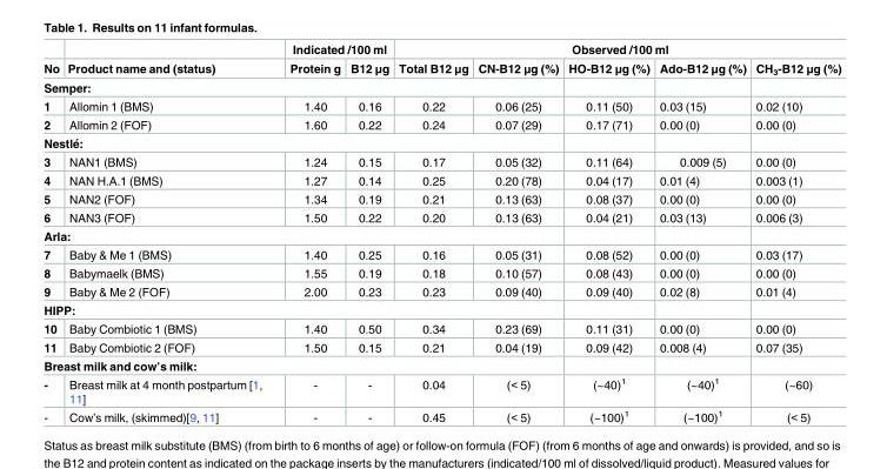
<table><thead><tr><td rowspan="2">No</td><td rowspan="2">Product name and (status)</td><td colspan="2">Indicated /100 ml</td><td colspan="5">Observed /100 ml</td></tr><tr><td>Protein g</td><td>B12 μg</td><td>Total B12 μg</td><td>CN-B12 μg (%)</td><td>HO-B12 μg (%)</td><td>Ado-B12 μg (%)</td><td>CH<sub>3</sub>-B12 μg (%)</td></tr></thead><tbody><tr><td colspan="9">Semper:</td></tr><tr><td>1</td><td>Allomin 1 (BMS)</td><td>1.40</td><td>0.16</td><td>0.22</td><td>0.06 (25)</td><td>0.11 (50)</td><td>0.03 (15)</td><td>0.02 (10)</td></tr><tr><td>2</td><td>Allomin 2 (FOF)</td><td>1.60</td><td>0.22</td><td>0.24</td><td>0.07 (29)</td><td>0.17 (71)</td><td>0.00 (0)</td><td>0.00 (0)</td></tr><tr><td colspan="9">Nestle´:</td></tr><tr><td>3</td><td>NAN1 (BMS)</td><td>1.24</td><td>0.15</td><td>0.17</td><td>0.05 (32)</td><td>0.11 (64)</td><td>0.009 (5)</td><td>0.00 (0)</td></tr><tr><td>4</td><td>NAN H.A.1 (BMS)</td><td>1.27</td><td>0.14</td><td>0.25</td><td>0.20 (78)</td><td>0.04 (17)</td><td>0.01 (4)</td><td>0.003 (1)</td></tr><tr><td>5</td><td>NAN2 (FOF)</td><td>1.34</td><td>0.19</td><td>0.21</td><td>0.13 (63)</td><td>0.08 (37)</td><td>0.00 (0)</td><td>0.00 (0)</td></tr><tr><td>6</td><td>NAN3 (FOF)</td><td>1.50</td><td>0.22</td><td>0.20</td><td>0.13 (63)</td><td>0.04 (21)</td><td>0.03 (13)</td><td>0.006 (3)</td></tr><tr><td colspan="9">Arla:</td></tr><tr><td>7</td><td>Baby &amp; Me 1 (BMS)</td><td>1.40</td><td>0.25</td><td>0.16</td><td>0.05 (31)</td><td>0.08 (52)</td><td>0.00 (0)</td><td>0.03 (17)</td></tr><tr><td>8</td><td>Babymaelk (BMS)</td><td>1.55</td><td>0.19</td><td>0.18</td><td>0.10 (57)</td><td>0.08 (43)</td><td>0.00 (0)</td><td>0.00 (0)</td></tr><tr><td>9</td><td>Baby &amp; Me 2 (FOF)</td><td>2.00</td><td>0.23</td><td>0.23</td><td>0.09 (40)</td><td>0.09 (40)</td><td>0.02 (8)</td><td>0.01 (4)</td></tr><tr><td colspan="9">HIPP:</td></tr><tr><td>10</td><td>Baby Combiotic 1 (BMS)</td><td>1.40</td><td>0.50</td><td>0.34</td><td>0.23 (69)</td><td>0.11 (31)</td><td>0.00 (0)</td><td>0.00 (0)</td></tr><tr><td>11</td><td>Baby Combiotic 2 (FOF)</td><td>1.50</td><td>0.15</td><td>0.21</td><td>0.04 (19)</td><td>0.09 (42)</td><td>0.008 (4)</td><td>0.07 (35)</td></tr><tr><td colspan="9">Breast milk and cow’s milk:</td></tr><tr><td>-</td><td>Breast milk at 4 month postpartum [1, 11]</td><td>-</td><td>-</td><td>0.04</td><td>(&lt; 5)</td><td>(~40)<sup>1</sup></td><td>(~40)<sup>1</sup></td><td>(~60)</td></tr><tr><td>-</td><td>Cow’s milk, (skimmed)[9, 11]</td><td>-</td><td>-</td><td>0.45</td><td>(&lt; 5)</td><td>(~100)<sup>1</sup></td><td>(~100)<sup>1</sup></td><td>(&lt; 5)</td></tr></tbody></table>